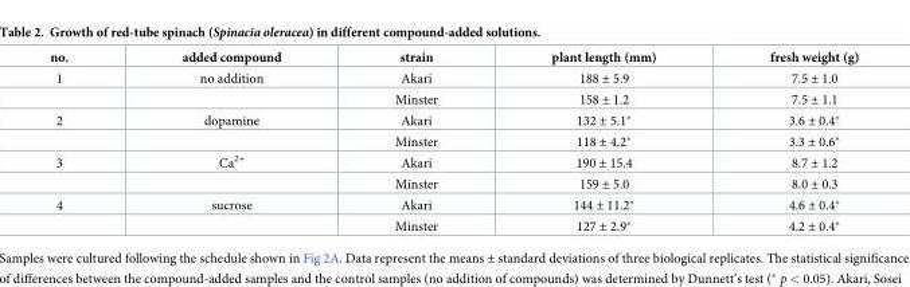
<table><thead><tr><td>no.</td><td>added compound</td><td>strain</td><td>plant length (mm)</td><td>fresh weight (g)</td></tr></thead><tbody><tr><td rowspan="2">1</td><td>no addition</td><td>Akari</td><td>188 ± 5.9</td><td>7.5 ± 1.0</td></tr><tr><td></td><td>Minster</td><td>158 ± 1.2</td><td>7.5 ± 1.1</td></tr><tr><td rowspan="2">2</td><td>dopamine</td><td>Akari</td><td>132 ± 5.1*</td><td>3.6 ± 0.4*</td></tr><tr><td></td><td>Minster</td><td>118 ± 4.2*</td><td>3.3 ± 0.6*</td></tr><tr><td rowspan="2">3</td><td>Ca<sup>2+</sup></td><td>Akari</td><td>190 ± 15.4</td><td>8.7 ± 1.2</td></tr><tr><td></td><td>Minster</td><td>159 ± 5.0</td><td>8.0 ± 0.3</td></tr><tr><td rowspan="2">4</td><td>sucrose</td><td>Akari</td><td>144 ± 11.2*</td><td>4.6 ± 0.4*</td></tr><tr><td></td><td>Minster</td><td>127 ± 2.9*</td><td>4.2 ± 0.4*</td></tr></tbody></table>